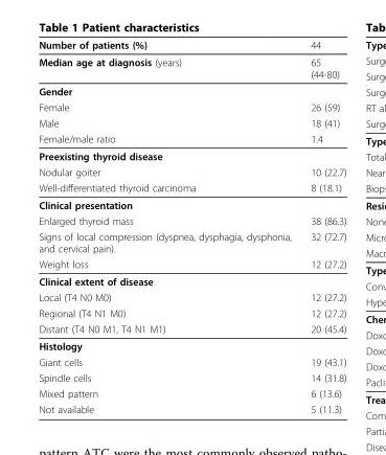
<table><thead><tr><td>Number of patients (%)</td><td>44</td></tr></thead><tbody><tr><td>Median age at diagnosis (years)</td><td>65 (44-80)</td></tr><tr><td colspan="2">Gender</td></tr><tr><td>Female</td><td>26 (59)</td></tr><tr><td>Male</td><td>18 (41)</td></tr><tr><td>Female/male ratio</td><td>1.4</td></tr><tr><td colspan="2">Preexisting thyroid disease</td></tr><tr><td>Nodular goiter</td><td>10 (22.7)</td></tr><tr><td>Well-differentiated thyroid carcinoma</td><td>8 (18.1)</td></tr><tr><td colspan="2">Clinical presentation</td></tr><tr><td>Enlarged thyroid mass</td><td>38 (86.3)</td></tr><tr><td>Signs of local compression (dyspnea, dysphagia, dysphonia, and cervical pain).</td><td>32 (72.7)</td></tr><tr><td>Weight loss</td><td>12 (27.2)</td></tr><tr><td colspan="2">Clinical extent of disease</td></tr><tr><td>Local (T4 N0 M0)</td><td>12 (27.2)</td></tr><tr><td>Regional (T4 N1 M0)</td><td>12 (27.2)</td></tr><tr><td>Distant (T4 N0 M1, T4 N1 M1)</td><td>20 (45.4)</td></tr><tr><td colspan="2">Histology</td></tr><tr><td>Giant cells</td><td>19 (43.1)</td></tr><tr><td>Spindle cells</td><td>14 (31.8)</td></tr><tr><td>Mixed pattern</td><td>6 (13.6)</td></tr><tr><td>Not available</td><td>5 (11.3)</td></tr></tbody></table>